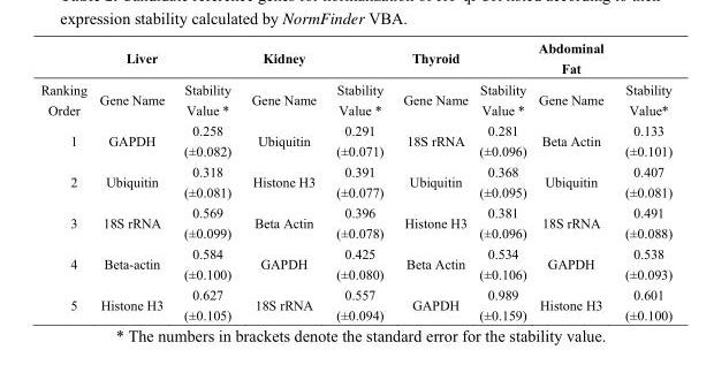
<table><thead><tr><td rowspan="2">Ranking Order</td><td rowspan="2">Liver Gene Name</td><td rowspan="2">Stability Value *</td><td rowspan="2">Kidney Gene Name</td><td rowspan="2">Stability Value *</td><td rowspan="2">Thyroid Gene Name</td><td rowspan="2">Stability Value *</td><td rowspan="2">Abdominal Fat Gene Name</td><td rowspan="2">Stability Value*</td></tr><tr></tr></thead><tbody><tr><td>1</td><td>GAPDH</td><td>0.258 (±0.082)</td><td>Ubiquitin</td><td>0.291 (±0.071)</td><td>18S rRNA</td><td>0.281 (±0.096)</td><td>Beta Actin</td><td>0.133 (±0.101)</td></tr><tr><td>2</td><td>Ubiquitin</td><td>0.318 (±0.081)</td><td>Histone H3</td><td>0.391 (±0.077)</td><td>Ubiquitin</td><td>0.368 (±0.095)</td><td>Ubiquitin</td><td>0.407 (±0.081)</td></tr><tr><td>3</td><td>18S rRNA</td><td>0.569 (±0.099)</td><td>Beta Actin</td><td>0.396 (±0.078)</td><td>Histone H3</td><td>0.381 (±0.096)</td><td>18S rRNA</td><td>0.491 (±0.088)</td></tr><tr><td>4</td><td>Beta-actin</td><td>0.584 (±0.100)</td><td>GAPDH</td><td>0.425 (±0.080)</td><td>Beta Actin</td><td>0.534 (±0.106)</td><td>GAPDH</td><td>0.538 (±0.093)</td></tr><tr><td>5</td><td>Histone H3</td><td>0.627 (±0.105)</td><td>18S rRNA</td><td>0.557 (±0.094)</td><td>GAPDH</td><td>0.989 (±0.159)</td><td>Histone H3</td><td>0.601 (±0.100)</td></tr></tbody></table>